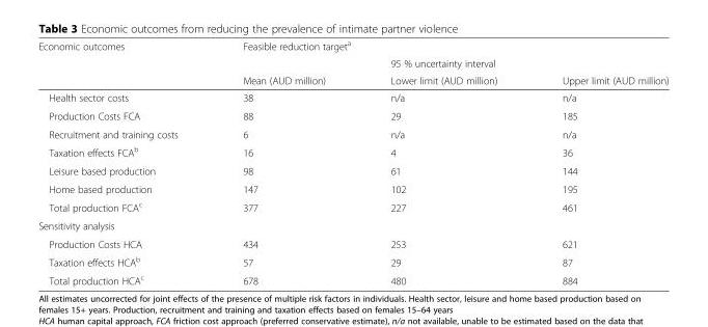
<table><thead><tr><td rowspan="3">Economic outcomes</td><td colspan="3">Feasible reduction target<sup>a</sup></td></tr><tr><td rowspan="2">Mean (AUD million)</td><td colspan="2">95 % uncertainty interval</td></tr><tr><td>Lower limit (AUD million)</td><td>Upper limit (AUD million)</td></tr></thead><tbody><tr><td>Health sector costs</td><td>38</td><td>n/a</td><td>n/a</td></tr><tr><td>Production Costs FCA</td><td>88</td><td>29</td><td>185</td></tr><tr><td>Recruitment and training costs</td><td>6</td><td>n/a</td><td>n/a</td></tr><tr><td>Taxation effects FCA<sup>b</sup></td><td>16</td><td>4</td><td>36</td></tr><tr><td>Leisure based production</td><td>98</td><td>61</td><td>144</td></tr><tr><td>Home based production</td><td>147</td><td>102</td><td>195</td></tr><tr><td>Total production FCA<sup>c</sup></td><td>377</td><td>227</td><td>461</td></tr><tr><td colspan="4">Sensitivity analysis</td></tr><tr><td>Production Costs HCA</td><td>434</td><td>253</td><td>621</td></tr><tr><td>Taxation effects HCA<sup>b</sup></td><td>57</td><td>29</td><td>87</td></tr><tr><td>Total production HCA<sup>c</sup></td><td>678</td><td>480</td><td>884</td></tr></tbody></table>